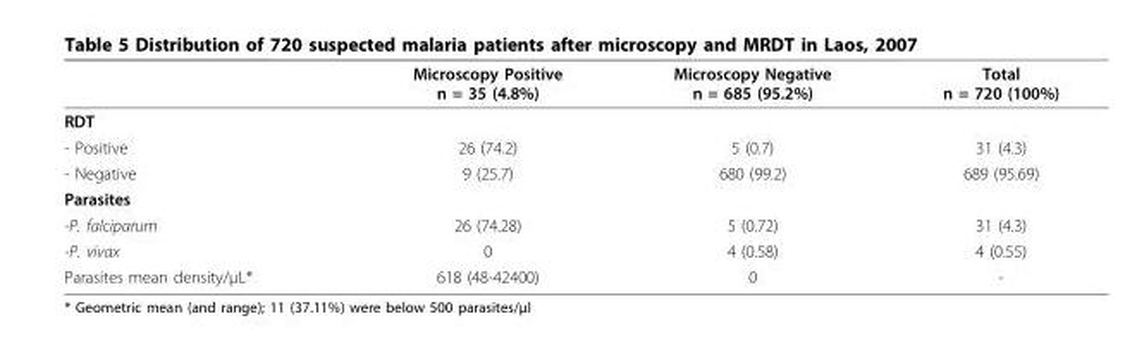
<table><thead><tr><td></td><td>Microscopy Positive n = 35 (4.8%)</td><td>Microscopy Negative n = 685 (95.2%)</td><td>Total n = 720 (100%)</td></tr></thead><tbody><tr><td colspan="4">RDT</td></tr><tr><td>- Positive</td><td>26 (74.2)</td><td>5 (0.7)</td><td>31 (4.3)</td></tr><tr><td>- Negative</td><td>9 (25.7)</td><td>680 (99.2)</td><td>689 (95.69)</td></tr><tr><td colspan="4">Parasites</td></tr><tr><td>-P. falciparum</td><td>26 (74.28)</td><td>5 (0.72)</td><td>31 (4.3)</td></tr><tr><td>-P. vivax</td><td>0</td><td>4 (0.58)</td><td>4 (0.55)</td></tr><tr><td>Parasites mean density/μL*</td><td>618 (48-42400)</td><td>0</td><td>-</td></tr></tbody></table>